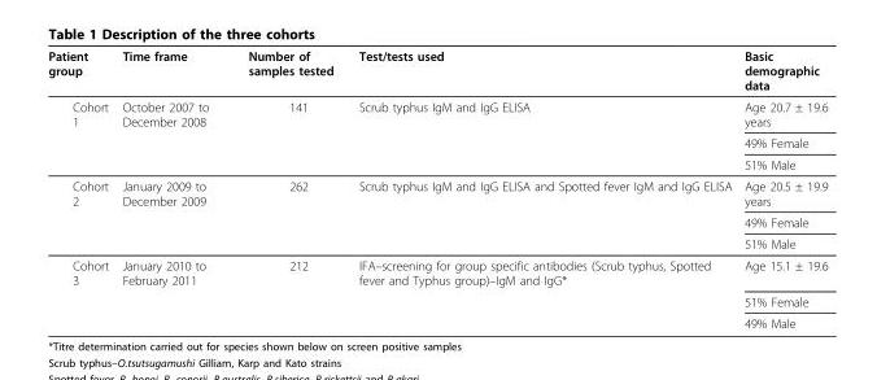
<table><thead><tr><td>Patient group</td><td>Time frame</td><td>Number of samples tested</td><td>Test/tests used</td><td>Basic demographic data</td></tr></thead><tbody><tr><td rowspan="3">Cohort 1</td><td>October 2007 to December 2008</td><td>141</td><td>Scrub typhus IgM and IgG ELISA</td><td>Age 20.7 ± 19.6 years</td></tr><tr><td></td><td></td><td></td><td>49% Female</td></tr><tr><td></td><td></td><td></td><td>51% Male</td></tr><tr><td rowspan="3">Cohort 2</td><td>January 2009 to December 2009</td><td>262</td><td>Scrub typhus IgM and IgG ELISA and Spotted fever IgM and IgG ELISA</td><td>Age 20.5 ± 19.9 years</td></tr><tr><td></td><td></td><td></td><td>49% Female</td></tr><tr><td></td><td></td><td></td><td>51% Male</td></tr><tr><td rowspan="3">Cohort 3</td><td>January 2010 to February 2011</td><td>212</td><td>IFA–screening for group specific antibodies (Scrub typhus, Spotted fever and Typhus group)–IgM and IgG*</td><td>Age 15.1 ± 19.6</td></tr><tr><td></td><td></td><td></td><td>51% Female</td></tr><tr><td></td><td></td><td></td><td>49% Male</td></tr></tbody></table>